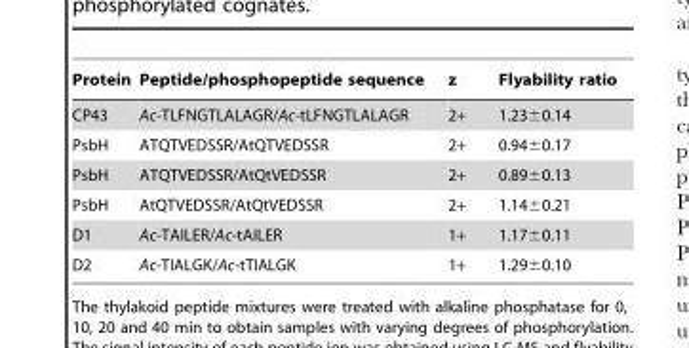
<table><thead><tr><td>Protein</td><td>Peptide/phosphopeptide sequence</td><td>z</td><td>Flyability ratio</td></tr></thead><tbody><tr><td>CP43</td><td>Ac-TLFNGTLALAGR/Ac-tLFNGTLALAGR</td><td>2+</td><td>1.23±0.14</td></tr><tr><td>PsbH</td><td>ATQTVEDSSR/AtQTVEDSSR</td><td>2+</td><td>0.94±0.17</td></tr><tr><td>PsbH</td><td>ATQTVEDSSR/AtQtVEDSSR</td><td>2+</td><td>0.89±0.13</td></tr><tr><td>PsbH</td><td>AtQTVEDSSR/AtQtVEDSSR</td><td>2+</td><td>1.14±0.21</td></tr><tr><td>D1</td><td>Ac-TAILER/Ac-tAILER</td><td>1+</td><td>1.17±0.11</td></tr><tr><td>D2</td><td>Ac-TIALGK/Ac-tTIALGK</td><td>1+</td><td>1.29±0.10</td></tr></tbody></table>